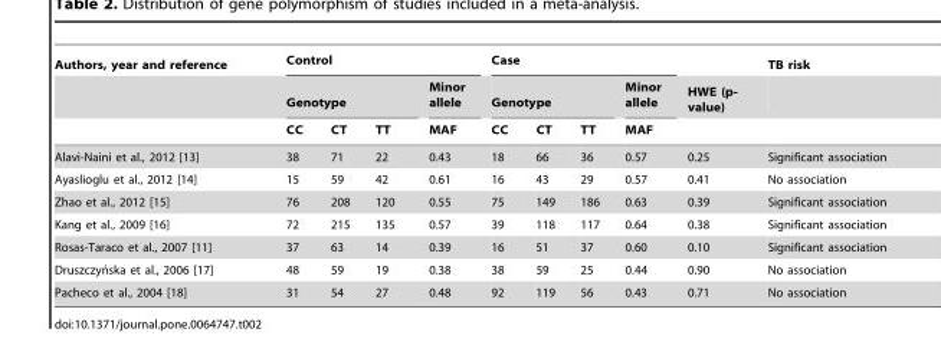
<table><thead><tr><td rowspan="3">Authors, year and reference</td><td colspan="4">Control</td><td colspan="4">Case</td><td rowspan="3">HWE (p- value)</td><td rowspan="3">TB risk</td></tr><tr><td colspan="3">Genotype</td><td rowspan="2">Minor allele MAF</td><td colspan="3">Genotype</td><td rowspan="2">Minor allele MAF</td></tr><tr><td>CC</td><td>CT</td><td>TT</td><td>CC</td><td>CT</td><td>TT</td></tr></thead><tbody><tr><td>Alavi-Naini et al., 2012 [13]</td><td>38</td><td>71</td><td>22</td><td>0.43</td><td>18</td><td>66</td><td>36</td><td>0.57</td><td>0.25</td><td>Significant association</td></tr><tr><td>Ayaslioglu et al., 2012 [14]</td><td>15</td><td>59</td><td>42</td><td>0.61</td><td>16</td><td>43</td><td>29</td><td>0.57</td><td>0.41</td><td>No association</td></tr><tr><td>Zhao et al., 2012 [15]</td><td>76</td><td>208</td><td>120</td><td>0.55</td><td>75</td><td>149</td><td>186</td><td>0.63</td><td>0.39</td><td>Significant association</td></tr><tr><td>Kang et al., 2009 [16]</td><td>72</td><td>215</td><td>135</td><td>0.57</td><td>39</td><td>118</td><td>117</td><td>0.64</td><td>0.38</td><td>Significant association</td></tr><tr><td>Rosas-Taraco et al., 2007 [11]</td><td>37</td><td>63</td><td>14</td><td>0.39</td><td>16</td><td>51</td><td>37</td><td>0.60</td><td>0.10</td><td>Significant association</td></tr><tr><td>Druszczyn´ska et al., 2006 [17]</td><td>48</td><td>59</td><td>19</td><td>0.38</td><td>38</td><td>59</td><td>25</td><td>0.44</td><td>0.90</td><td>No association</td></tr><tr><td>Pacheco et al., 2004 [18]</td><td>31</td><td>54</td><td>27</td><td>0.48</td><td>92</td><td>119</td><td>56</td><td>0.43</td><td>0.71</td><td>No association</td></tr></tbody></table>